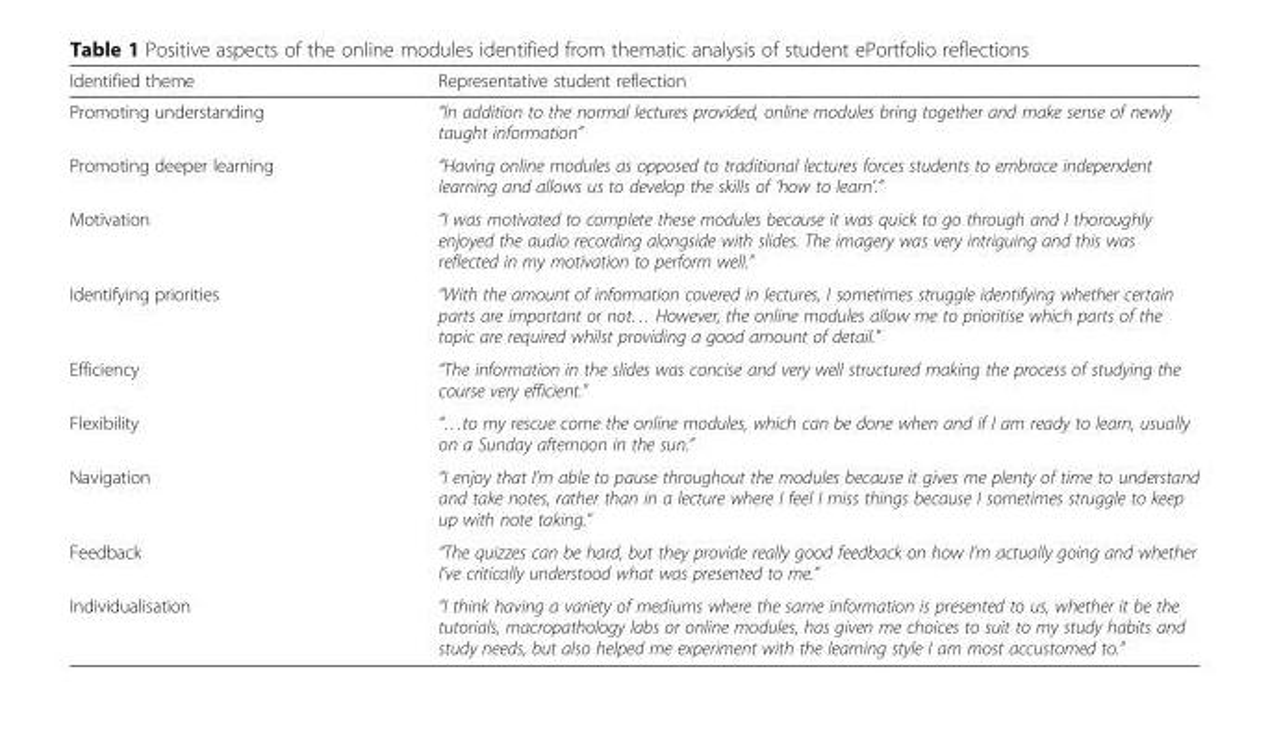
<table><thead><tr><td>Identified theme</td><td>Representative student reflection</td></tr></thead><tbody><tr><td>Promoting understanding</td><td>“In addition to the normal lectures provided, online modules bring together and make sense of newly taught information”</td></tr><tr><td>Promoting deeper learning</td><td>“Having online modules as opposed to traditional lectures forces students to embrace independent learning and allows us to develop the skills of ‘how to learn’.”</td></tr><tr><td>Motivation</td><td>“I was motivated to complete these modules because it was quick to go through and I thoroughly enjoyed the audio recording alongside with slides. The imagery was very intriguing and this was reflected in my motivation to perform well.”</td></tr><tr><td>Identifying priorities</td><td>“With the amount of information covered in lectures, I sometimes struggle identifying whether certain parts are important or not… However, the online modules allow me to prioritise which parts of the topic are required whilst providing a good amount of detail.”</td></tr><tr><td>Efficiency</td><td>“The information in the slides was concise and very well structured making the process of studying the course very efficient.”</td></tr><tr><td>Flexibility</td><td>“…to my rescue come the online modules, which can be done when and if I am ready to learn, usually on a Sunday afternoon in the sun.”</td></tr><tr><td>Navigation</td><td>“I enjoy that I’m able to pause throughout the modules because it gives me plenty of time to understand and take notes, rather than in a lecture where I feel I miss things because I sometimes struggle to keep up with note taking.”</td></tr><tr><td>Feedback</td><td>“The quizzes can be hard, but they provide really good feedback on how I’m actually going and whether I’ve critically understood what was presented to me.”</td></tr><tr><td>Individualisation</td><td>“I think having a variety of mediums where the same information is presented to us, whether it be the tutorials, macropathology labs or online modules, has given me choices to suit to my study habits and study needs, but also helped me experiment with the learning style I am most accustomed to.”</td></tr></tbody></table>